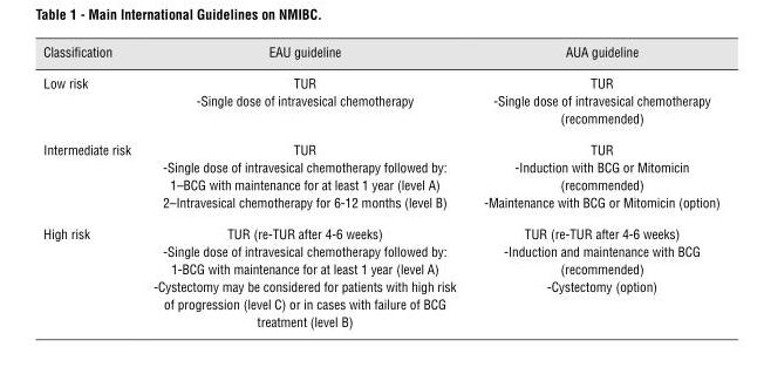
<table><thead><tr><td>Classification</td><td>EAU guideline</td><td>AUA guideline</td></tr></thead><tbody><tr><td>Low risk</td><td>TUR -Single dose of intravesical chemotherapy</td><td>TUR -Single dose of intravesical chemotherapy (recommended)</td></tr><tr><td>Intermediate risk</td><td>TUR -Single dose of intravesical chemotherapy followed by: 1–BCG with maintenance for at least 1 year (level A) 2–Intravesical chemotherapy for 6-12 months (level B)</td><td>TUR -Induction with BCG or Mitomicin (recommended) -Maintenance with BCG or Mitomicin (option)</td></tr><tr><td>High risk</td><td>TUR (re-TUR after 4-6 weeks) -Single dose of intravesical chemotherapy followed by: 1-BCG with maintenance for at least 1 year (level A) -Cystectomy may be considered for patients with high risk of progression (level C) or in cases with failure of BCG treatment (level B)</td><td>TUR (re-TUR after 4-6 weeks) -Induction and maintenance with BCG (recommended) -Cystectomy (option)</td></tr></tbody></table>